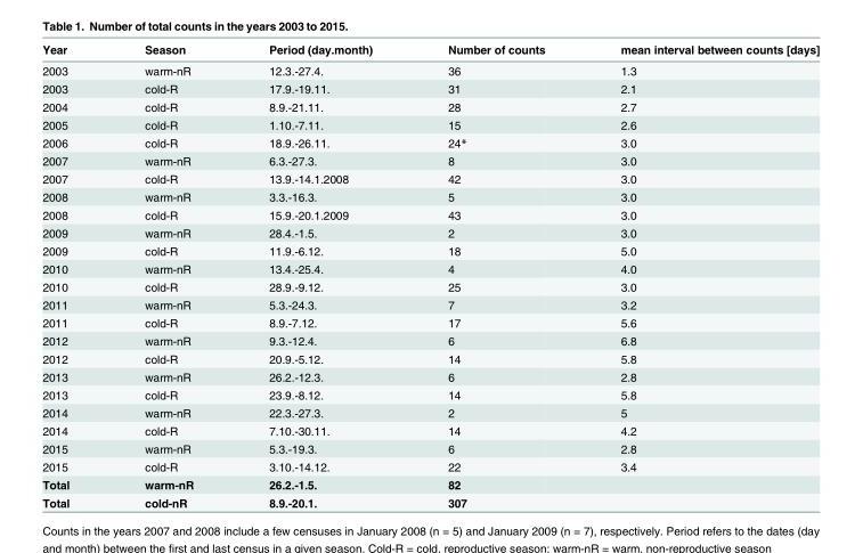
<table><thead><tr><td>Year</td><td>Season</td><td>Period (day.month)</td><td>Number of counts</td><td>mean interval between counts [days]</td></tr></thead><tbody><tr><td>2003</td><td>warm-nR</td><td>12.3.-27.4.</td><td>36</td><td>1.3</td></tr><tr><td>2003</td><td>cold-R</td><td>17.9.-19.11.</td><td>31</td><td>2.1</td></tr><tr><td>2004</td><td>cold-R</td><td>8.9.-21.11.</td><td>28</td><td>2.7</td></tr><tr><td>2005</td><td>cold-R</td><td>1.10.-7.11.</td><td>15</td><td>2.6</td></tr><tr><td>2006</td><td>cold-R</td><td>18.9.-26.11.</td><td>24*</td><td>3.0</td></tr><tr><td>2007</td><td>warm-nR</td><td>6.3.-27.3.</td><td>8</td><td>3.0</td></tr><tr><td>2007</td><td>cold-R</td><td>13.9.-14.1.2008</td><td>42</td><td>3.0</td></tr><tr><td>2008</td><td>warm-nR</td><td>3.3.-16.3.</td><td>5</td><td>3.0</td></tr><tr><td>2008</td><td>cold-R</td><td>15.9.-20.1.2009</td><td>43</td><td>3.0</td></tr><tr><td>2009</td><td>warm-nR</td><td>28.4.-1.5.</td><td>2</td><td>3.0</td></tr><tr><td>2009</td><td>cold-R</td><td>11.9.-6.12.</td><td>18</td><td>5.0</td></tr><tr><td>2010</td><td>warm-nR</td><td>13.4.-25.4.</td><td>4</td><td>4.0</td></tr><tr><td>2010</td><td>cold-R</td><td>28.9.-9.12.</td><td>25</td><td>3.0</td></tr><tr><td>2011</td><td>warm-nR</td><td>5.3.-24.3.</td><td>7</td><td>3.2</td></tr><tr><td>2011</td><td>cold-R</td><td>8.9.-7.12.</td><td>17</td><td>5.6</td></tr><tr><td>2012</td><td>warm-nR</td><td>9.3.-12.4.</td><td>6</td><td>6.8</td></tr><tr><td>2012</td><td>cold-R</td><td>20.9.-5.12.</td><td>14</td><td>5.8</td></tr><tr><td>2013</td><td>warm-nR</td><td>26.2.-12.3.</td><td>6</td><td>2.8</td></tr><tr><td>2013</td><td>cold-R</td><td>23.9.-8.12.</td><td>14</td><td>5.8</td></tr><tr><td>2014</td><td>warm-nR</td><td>22.3.-27.3.</td><td>2</td><td>5</td></tr><tr><td>2014</td><td>cold-R</td><td>7.10.-30.11.</td><td>14</td><td>4.2</td></tr><tr><td>2015</td><td>warm-nR</td><td>5.3.-19.3.</td><td>6</td><td>2.8</td></tr><tr><td>2015</td><td>cold-R</td><td>3.10.-14.12.</td><td>22</td><td>3.4</td></tr><tr><td>Total</td><td>warm-nR</td><td>26.2.-1.5.</td><td>82</td><td></td></tr><tr><td>Total</td><td>cold-nR</td><td>8.9.-20.1.</td><td>307</td><td></td></tr></tbody></table>